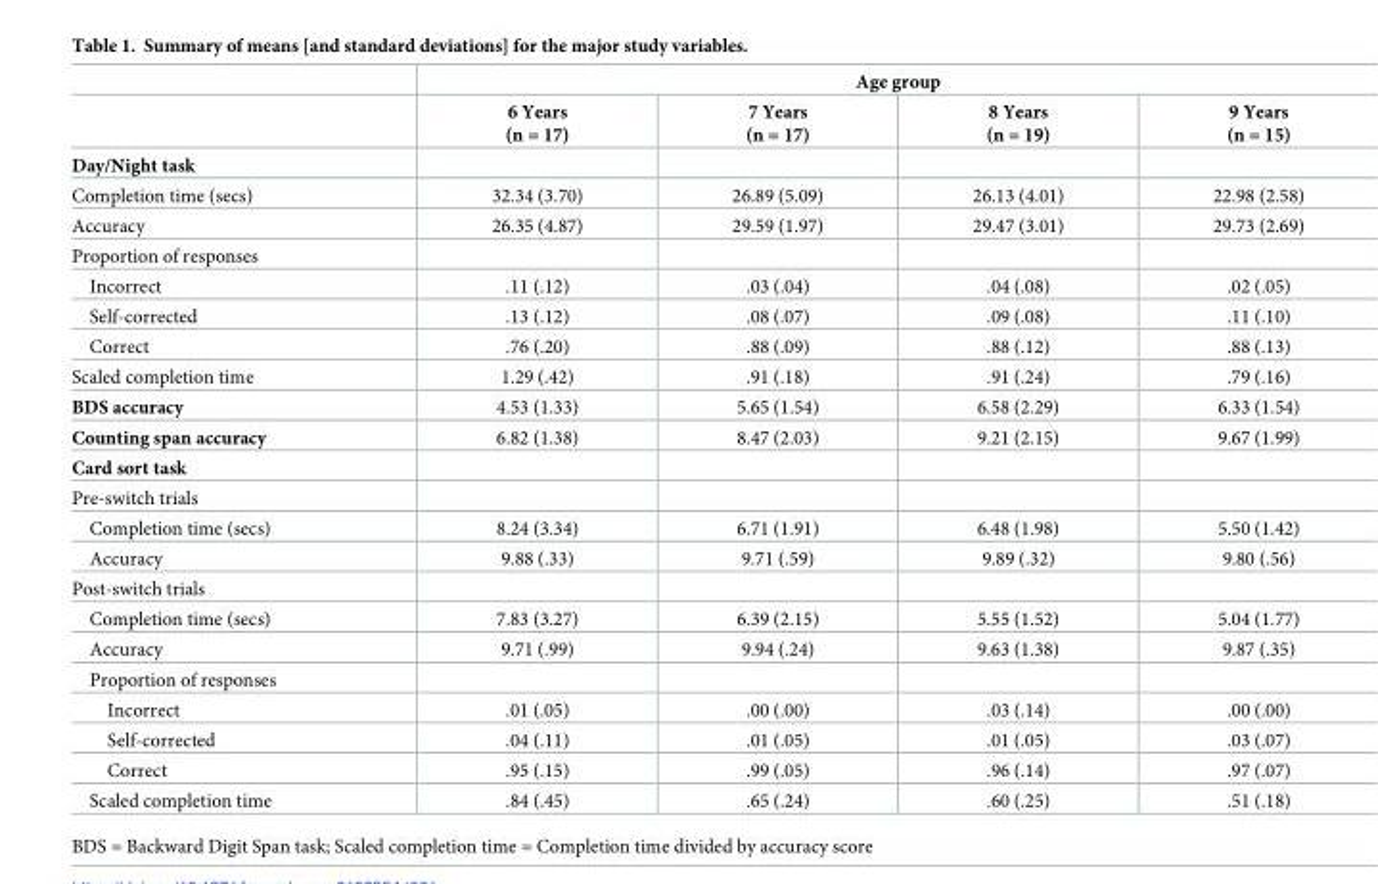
<table><thead><tr><td rowspan="2"></td><td colspan="4">Age group</td></tr><tr><td>6 Years (n = 17)</td><td>7 Years (n = 17)</td><td>8 Years (n = 19)</td><td>9 Years (n = 15)</td></tr></thead><tbody><tr><td colspan="5">Day/Night task</td></tr><tr><td>Completion time (secs)</td><td>32.34 (3.70)</td><td>26.89 (5.09)</td><td>26.13 (4.01)</td><td>22.98 (2.58)</td></tr><tr><td>Accuracy</td><td>26.35 (4.87)</td><td>29.59 (1.97)</td><td>29.47 (3.01)</td><td>29.73 (2.69)</td></tr><tr><td colspan="5">Proportion of responses</td></tr><tr><td>Incorrect</td><td>.11 (.12)</td><td>.03 (.04)</td><td>.04 (.08)</td><td>.02 (.05)</td></tr><tr><td>Self-corrected</td><td>.13 (.12)</td><td>.08 (.07)</td><td>.09 (.08)</td><td>.11 (.10)</td></tr><tr><td>Correct</td><td>.76 (.20)</td><td>.88 (.09)</td><td>.88 (.12)</td><td>.88 (.13)</td></tr><tr><td>Scaled completion time</td><td>1.29 (.42)</td><td>.91 (.18)</td><td>.91 (.24)</td><td>.79 (.16)</td></tr><tr><td>BDS accuracy</td><td>4.53 (1.33)</td><td>5.65 (1.54)</td><td>6.58 (2.29)</td><td>6.33 (1.54)</td></tr><tr><td>Counting span accuracy</td><td>6.82 (1.38)</td><td>8.47 (2.03)</td><td>9.21 (2.15)</td><td>9.67 (1.99)</td></tr><tr><td colspan="5">Card sort task</td></tr><tr><td colspan="5">Pre-switch trials</td></tr><tr><td>Completion time (secs)</td><td>8.24 (3.34)</td><td>6.71 (1.91)</td><td>6.48 (1.98)</td><td>5.50 (1.42)</td></tr><tr><td>Accuracy</td><td>9.88 (.33)</td><td>9.71 (.59)</td><td>9.89 (.32)</td><td>9.80 (.56)</td></tr><tr><td colspan="5">Post-switch trials</td></tr><tr><td>Completion time (secs)</td><td>7.83 (3.27)</td><td>6.39 (2.15)</td><td>5.55 (1.52)</td><td>5.04 (1.77)</td></tr><tr><td>Accuracy</td><td>9.71 (.99)</td><td>9.94 (.24)</td><td>9.63 (1.38)</td><td>9.87 (.35)</td></tr><tr><td colspan="5">Proportion of responses</td></tr><tr><td>Incorrect</td><td>.01 (.05)</td><td>.00 (.00)</td><td>.03 (.14)</td><td>.00 (.00)</td></tr><tr><td>Self-corrected</td><td>.04 (.11)</td><td>.01 (.05)</td><td>.01 (.05)</td><td>.03 (.07)</td></tr><tr><td>Correct</td><td>.95 (.15)</td><td>.99 (.05)</td><td>.96 (.14)</td><td>.97 (.07)</td></tr><tr><td>Scaled completion time</td><td>.84 (.45)</td><td>.65 (.24)</td><td>.60 (.25)</td><td>.51 (.18)</td></tr></tbody></table>